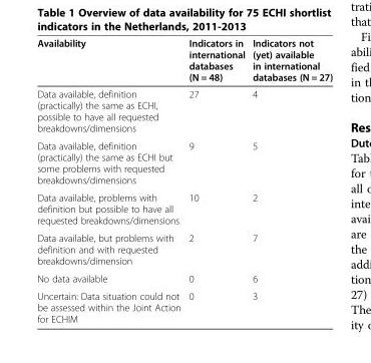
<table><thead><tr><td>Availability</td><td>Indicators in international databases (N = 48)</td><td>Indicators not (yet) available in international databases (N = 27)</td></tr></thead><tbody><tr><td>Data available, definition (practically) the same as ECHI, possible to have all requested breakdowns/dimensions</td><td>27</td><td>4</td></tr><tr><td>Data available, definition (practically) the same as ECHI but some problems with requested breakdowns/dimensions</td><td>9</td><td>5</td></tr><tr><td>Data available, problems with definition but possible to have all requested breakdowns/dimensions</td><td>10</td><td>2</td></tr><tr><td>Data available, but problems with definition and with requested breakdowns/dimension</td><td>2</td><td>7</td></tr><tr><td>No data available</td><td>0</td><td>6</td></tr><tr><td>Uncertain: Data situation could not be assessed within the Joint Action for ECHIM</td><td>0</td><td>3</td></tr></tbody></table>